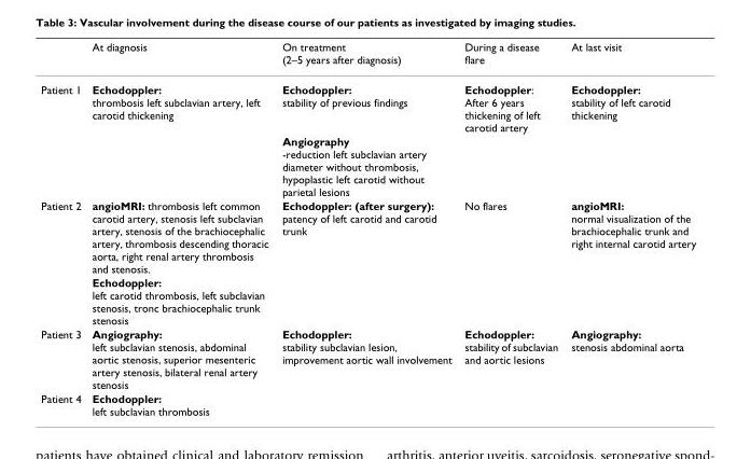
<table><thead><tr><td></td><td>At diagnosis</td><td>On treatment (2–5 years after diagnosis)</td><td>During a disease flare</td><td>At last visit</td></tr></thead><tbody><tr><td rowspan="2">Patient 1</td><td>Echodoppler: thrombosis left subclavian artery, left carotid thickening</td><td>Echodoppler: stability of previous findings</td><td>Echodoppler: After 6 years thickening of left carotid artery</td><td>Echodoppler: stability of left carotid thickening</td></tr><tr><td></td><td>Angiography -reduction left subclavian artery diameter without thrombosis, hypoplastic left carotid without parietal lesions</td><td></td><td></td></tr><tr><td rowspan="2">Patient 2</td><td>angioMRI: thrombosis left common carotid artery, stenosis left subclavian artery, stenosis of the brachiocephalic artery, thrombosis descending thoracic aorta, right renal artery thrombosis and stenosis.</td><td>Echodoppler: (after surgery): patency of left carotid and carotid trunk</td><td>No flares</td><td>angioMRI: normal visualization of the brachiocephalic trunk and right internal carotid artery</td></tr><tr><td>Echodoppler: left carotid thrombosis, left subclavian stenosis, tronc brachiocephalic trunk stenosis</td><td></td><td></td><td></td></tr><tr><td>Patient 3</td><td>Angiography: left subclavian stenosis, abdominal aortic stenosis, superior mesenteric artery stenosis, bilateral renal artery stenosis</td><td>Echodoppler: stability subclavian lesion, improvement aortic wall involvement</td><td>Echodoppler: stability of subclavian and aortic lesions</td><td>Angiography: stenosis abdominal aorta</td></tr><tr><td>Patient 4</td><td>Echodoppler: left subclavian thrombosis</td><td></td><td></td><td></td></tr></tbody></table>